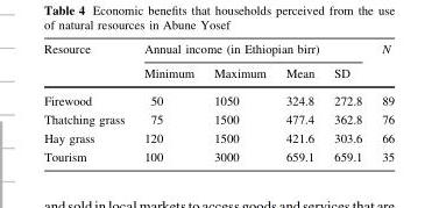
<table><thead><tr><td rowspan="2">Resource</td><td colspan="4">Annual income (in Ethiopian birr)</td><td rowspan="2">N</td></tr><tr><td>Minimum</td><td>Maximum</td><td>Mean</td><td>SD</td></tr></thead><tbody><tr><td>Firewood</td><td>50</td><td>1050</td><td>324.8</td><td>272.8</td><td>89</td></tr><tr><td>Thatching grass</td><td>75</td><td>1500</td><td>477.4</td><td>362.8</td><td>76</td></tr><tr><td>Hay grass</td><td>120</td><td>1500</td><td>421.6</td><td>303.6</td><td>66</td></tr><tr><td>Tourism</td><td>100</td><td>3000</td><td>659.1</td><td>659.1</td><td>35</td></tr></tbody></table>